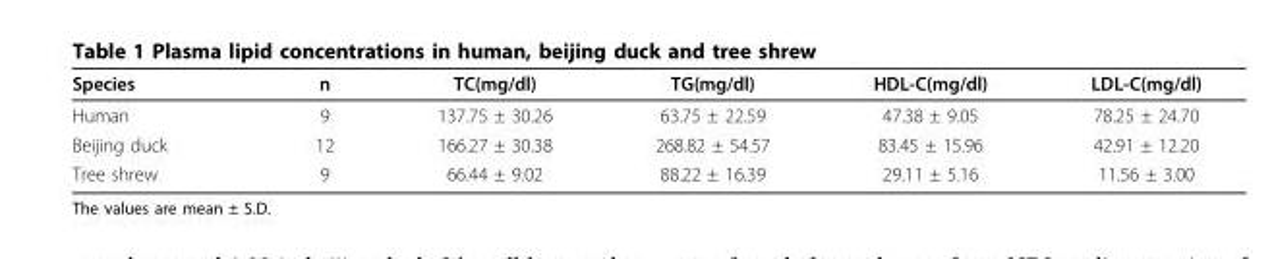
<table><thead><tr><td>Species</td><td>n</td><td>TC(mg/dl)</td><td>TG(mg/dl)</td><td>HDL-C(mg/dl)</td><td>LDL-C(mg/dl)</td></tr></thead><tbody><tr><td>Human</td><td>9</td><td>137.75 ± 30.26</td><td>63.75 ± 22.59</td><td>47.38 ± 9.05</td><td>78.25 ± 24.70</td></tr><tr><td>Beijing duck</td><td>12</td><td>166.27 ± 30.38</td><td>268.82 ± 54.57</td><td>83.45 ± 15.96</td><td>42.91 ± 12.20</td></tr><tr><td>Tree shrew</td><td>9</td><td>66.44 ± 9.02</td><td>88.22 ± 16.39</td><td>29.11 ± 5.16</td><td>11.56 ± 3.00</td></tr></tbody></table>